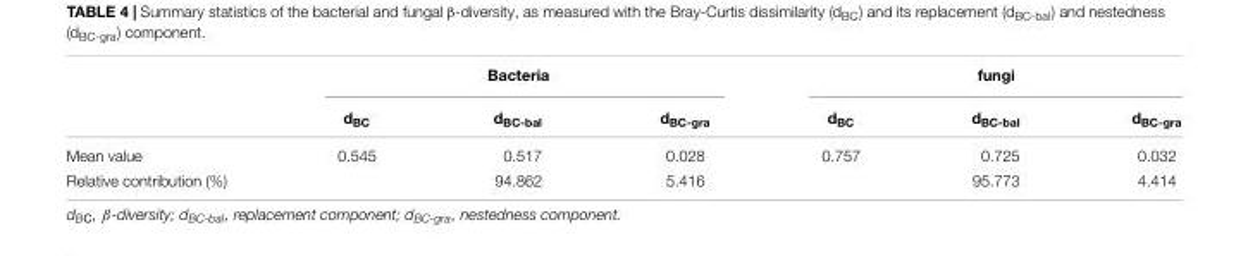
<table><thead><tr><td rowspan="2"></td><td colspan="3">Bacteria</td><td colspan="3">fungi</td></tr><tr><td>d<sub>BC</sub></td><td>d<sub>BC-bal</sub></td><td>d<sub>BC-gra</sub></td><td>d<sub>BC</sub></td><td>d<sub>BC-bal</sub></td><td>d<sub>BC-gra</sub></td></tr></thead><tbody><tr><td>Mean value</td><td>0.545</td><td>0.517</td><td>0.028</td><td>0.757</td><td>0.725</td><td>0.032</td></tr><tr><td>Relative contribution (%)</td><td></td><td>94.862</td><td>5.416</td><td></td><td>95.773</td><td>4.414</td></tr></tbody></table>